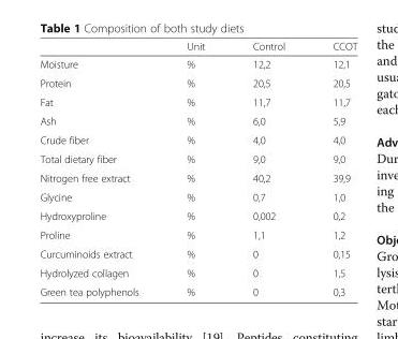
<table><thead><tr><td></td><td>Unit</td><td>Control</td><td>CCOT</td></tr></thead><tbody><tr><td>Moisture</td><td>%</td><td>12,2</td><td>12,1</td></tr><tr><td>Protein</td><td>%</td><td>20,5</td><td>20,5</td></tr><tr><td>Fat</td><td>%</td><td>11,7</td><td>11,7</td></tr><tr><td>Ash</td><td>%</td><td>6,0</td><td>5,9</td></tr><tr><td>Crude fiber</td><td>%</td><td>4,0</td><td>4,0</td></tr><tr><td>Total dietary fiber</td><td>%</td><td>9,0</td><td>9,0</td></tr><tr><td>Nitrogen free extract</td><td>%</td><td>40,2</td><td>39,9</td></tr><tr><td>Glycine</td><td>%</td><td>0,7</td><td>1,0</td></tr><tr><td>Hydroxyproline</td><td>%</td><td>0,002</td><td>0,2</td></tr><tr><td>Proline</td><td>%</td><td>1,1</td><td>1,2</td></tr><tr><td>Curcuminoids extract</td><td>%</td><td>0</td><td>0,15</td></tr><tr><td>Hydrolyzed collagen</td><td>%</td><td>0</td><td>1,5</td></tr><tr><td>Green tea polyphenols</td><td>%</td><td>0</td><td>0,3</td></tr></tbody></table>